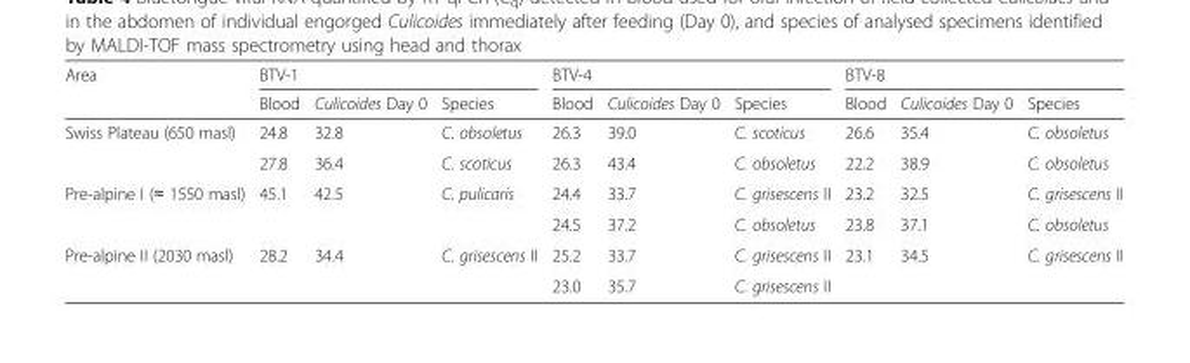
<table><thead><tr><td rowspan="2">Area</td><td colspan="3">BTV-1</td><td colspan="3">BTV-4</td><td colspan="3">BTV-8</td></tr><tr><td>Blood</td><td>Culicoides Day 0</td><td>Species</td><td>Blood</td><td>Culicoides Day 0</td><td>Species</td><td>Blood</td><td>Culicoides Day 0</td><td>Species</td></tr></thead><tbody><tr><td rowspan="2">Swiss Plateau (650 masl)</td><td>24.8</td><td>32.8</td><td>C. obsoletus</td><td>26.3</td><td>39.0</td><td>C. scoticus</td><td>26.6</td><td>35.4</td><td>C. obsoletus</td></tr><tr><td>27.8</td><td>36.4</td><td>C. scoticus</td><td>26.3</td><td>43.4</td><td>C. obsoletus</td><td>22.2</td><td>38.9</td><td>C. obsoletus</td></tr><tr><td rowspan="2">Pre-alpine I (≈ 1550 masl)</td><td rowspan="2">45.1</td><td rowspan="2">42.5</td><td rowspan="2">C. pulicaris</td><td>24.4</td><td>33.7</td><td>C. grisescens II</td><td>23.2</td><td>32.5</td><td>C. grisescens II</td></tr><tr><td>24.5</td><td>37.2</td><td>C. obsoletus</td><td>23.8</td><td>37.1</td><td>C. obsoletus</td></tr><tr><td rowspan="2">Pre-alpine II (2030 masl)</td><td rowspan="2">28.2</td><td rowspan="2">34.4</td><td rowspan="2">C. grisescens II</td><td>25.2</td><td>33.7</td><td>C. grisescens II</td><td>23.1</td><td>34.5</td><td>C. grisescens II</td></tr><tr><td>23.0</td><td>35.7</td><td>C. grisescens II</td><td></td><td></td><td></td></tr></tbody></table>